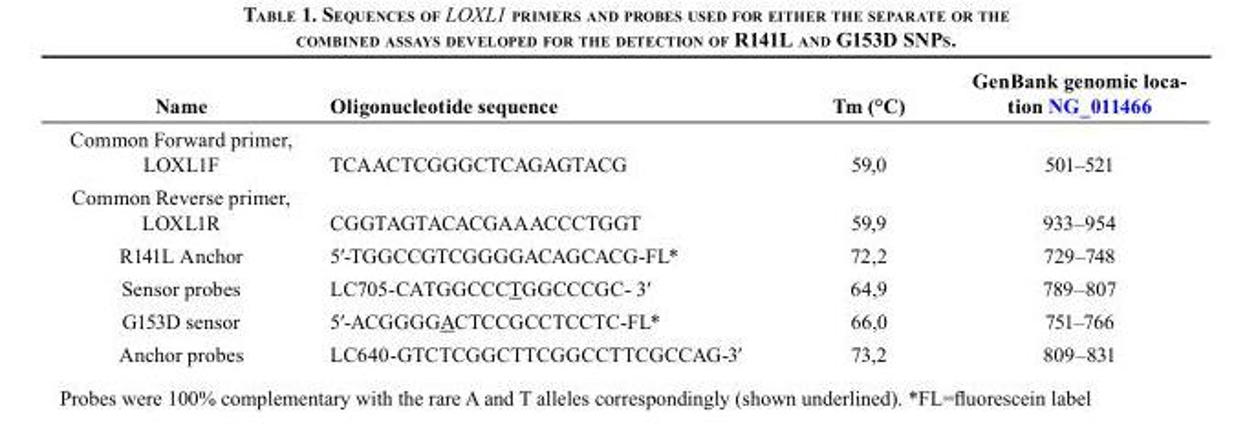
<table><thead><tr><td>Name</td><td>Oligonucleotide sequence</td><td>Tm (°C)</td><td>GenBank genomic loca- tion NG_011466</td></tr></thead><tbody><tr><td>Common Forward primer, LOXL1F</td><td>TCAACTCGGGCTCAGAGTACG</td><td>59,0</td><td>501–521</td></tr><tr><td>Common Reverse primer, LOXL1R</td><td>CGGTAGTACACGAAACCCTGGT</td><td>59,9</td><td>933–954</td></tr><tr><td>R141L Anchor</td><td>5′-TGGCCGTCGGGGACAGCACG-FL*</td><td>72,2</td><td>729–748</td></tr><tr><td>Sensor probes</td><td>LC705-CATGGCCCTGGCCCGC- 3′</td><td>64,9</td><td>789–807</td></tr><tr><td>G153D sensor</td><td>5′-ACGGGGACTCCGCCTCCTC-FL*</td><td>66,0</td><td>751–766</td></tr><tr><td>Anchor probes</td><td>LC640-GTCTCGGCTTCGGCCTTCGCCAG-3′</td><td>73,2</td><td>809–831</td></tr></tbody></table>